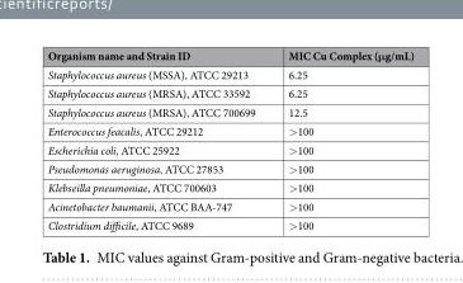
<table><thead><tr><td>Organism name and Strain ID</td><td>MIC Cu Complex (μg/mL)</td></tr></thead><tbody><tr><td>Staphylococcus aureus (MSSA), ATCC 29213</td><td>6.25</td></tr><tr><td>Staphylococcus aureus (MRSA), ATCC 33592</td><td>6.25</td></tr><tr><td>Staphylococcus aureus (MRSA), ATCC 700699</td><td>12.5</td></tr><tr><td>Enterococcus feacalis, ATCC 29212</td><td>&gt;100</td></tr><tr><td>Escherichia coli, ATCC 25922</td><td>&gt;100</td></tr><tr><td>Pseudomonas aeruginosa, ATCC 27853</td><td>&gt;100</td></tr><tr><td>Klebseilla pneumoniae, ATCC 700603</td><td>&gt;100</td></tr><tr><td>Acinetobacter baumanii, ATCC BAA-747</td><td>&gt;100</td></tr><tr><td>Clostridium difficile, ATCC 9689</td><td>&gt;100</td></tr></tbody></table>